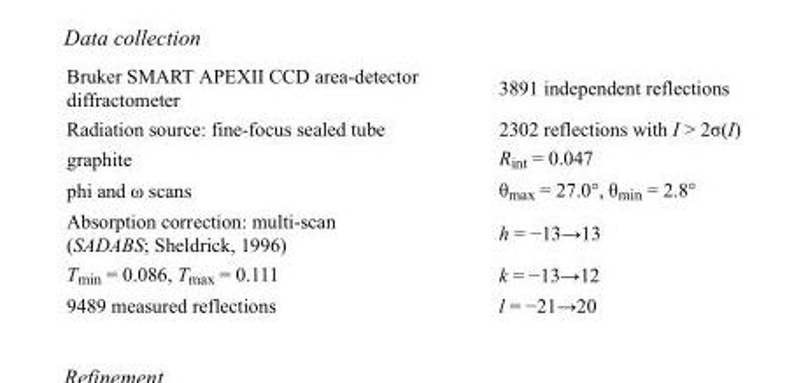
<table><tbody><tr><td>Bruker SMART APEXII CCD area-detector diffractometer</td><td>3891 independent reflections</td></tr><tr><td>Radiation source: fine-focus sealed tube</td><td>2302 reflections with I &gt; 2σ(I)</td></tr><tr><td>graphite</td><td>R<sub>int</sub> = 0.047</td></tr><tr><td>phi and ω scans</td><td>θ<sub>max</sub> = 27.0°, θ<sub>min</sub> = 2.8°</td></tr><tr><td>Absorption correction: multi-scan (SADABS; Sheldrick, 1996)</td><td>h = −13→13</td></tr><tr><td>T<sub>min</sub> = 0.086, T<sub>max</sub> = 0.111</td><td>k = −13→12</td></tr><tr><td>9489 measured reflections</td><td>l = −21→20</td></tr></tbody></table>